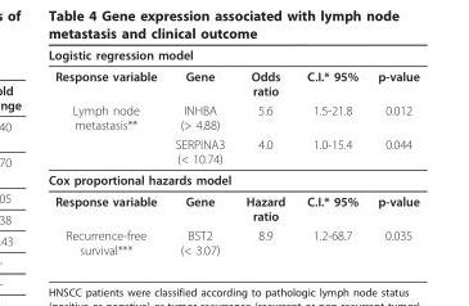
<table><thead><tr><td colspan="5">Logistic regression model</td></tr><tr><td>Response variable</td><td>Gene</td><td>Odds ratio</td><td>C.I.* 95%</td><td>p-value</td></tr></thead><tbody><tr><td rowspan="2">Lymph node metastasis**</td><td>INHBA (&gt; 4.88)</td><td>5.6</td><td>1.5-21.8</td><td>0.012</td></tr><tr><td>SERPINA3 (&lt; 10.74)</td><td>4.0</td><td>1.0-15.4</td><td>0.044</td></tr><tr><td colspan="5">Cox proportional hazards model</td></tr><tr><td>Response variable</td><td>Gene</td><td>Hazard ratio</td><td>C.I.* 95%</td><td>p-value</td></tr><tr><td>Recurrence-free survival***</td><td>BST2 (&lt; 3.07)</td><td>8.9</td><td>1.2-68.7</td><td>0.035</td></tr></tbody></table>